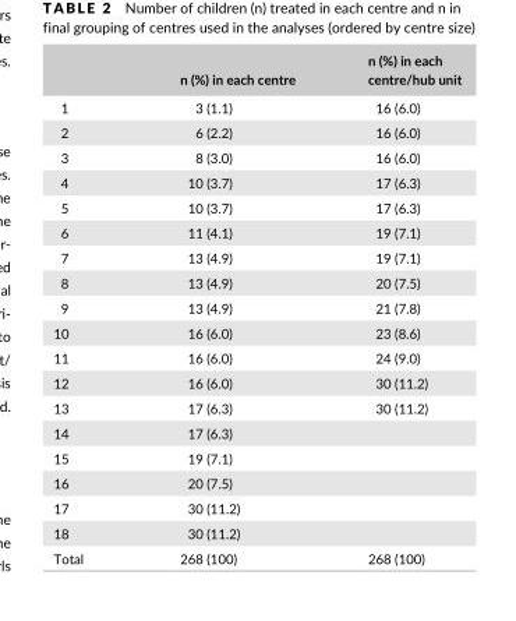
<table><thead><tr><td></td><td>n (%) in each centre</td><td>n (%) in each centre/hub unit</td></tr></thead><tbody><tr><td>1</td><td>3 (1.1)</td><td>16 (6.0)</td></tr><tr><td>2</td><td>6 (2.2)</td><td>16 (6.0)</td></tr><tr><td>3</td><td>8 (3.0)</td><td>16 (6.0)</td></tr><tr><td>4</td><td>10 (3.7)</td><td>17 (6.3)</td></tr><tr><td>5</td><td>10 (3.7)</td><td>17 (6.3)</td></tr><tr><td>6</td><td>11 (4.1)</td><td>19 (7.1)</td></tr><tr><td>7</td><td>13 (4.9)</td><td>19 (7.1)</td></tr><tr><td>8</td><td>13 (4.9)</td><td>20 (7.5)</td></tr><tr><td>9</td><td>13 (4.9)</td><td>21 (7.8)</td></tr><tr><td>10</td><td>16 (6.0)</td><td>23 (8.6)</td></tr><tr><td>11</td><td>16 (6.0)</td><td>24 (9.0)</td></tr><tr><td>12</td><td>16 (6.0)</td><td>30 (11.2)</td></tr><tr><td>13</td><td>17 (6.3)</td><td>30 (11.2)</td></tr><tr><td>14</td><td>17 (6.3)</td><td></td></tr><tr><td>15</td><td>19 (7.1)</td><td></td></tr><tr><td>16</td><td>20 (7.5)</td><td></td></tr><tr><td>17</td><td>30 (11.2)</td><td></td></tr><tr><td>18</td><td>30 (11.2)</td><td></td></tr><tr><td>Total</td><td>268 (100)</td><td>268 (100)</td></tr></tbody></table>